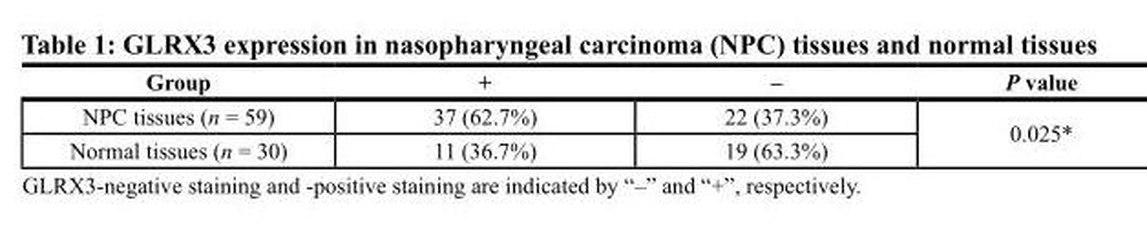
<table><thead><tr><td>Group</td><td>+</td><td>–</td><td>P value</td></tr></thead><tbody><tr><td>NPC tissues (n = 59)</td><td>37 (62.7%)</td><td>22 (37.3%)</td><td rowspan="2">0.025*</td></tr><tr><td>Normal tissues (n = 30)</td><td>11 (36.7%)</td><td>19 (63.3%)</td></tr></tbody></table>